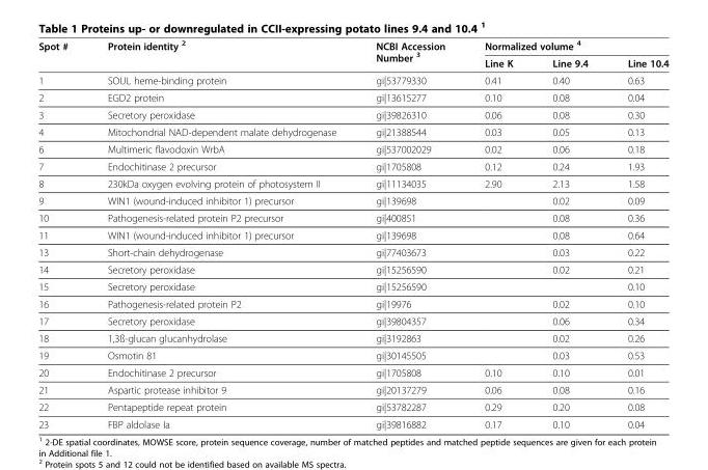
<table><thead><tr><td rowspan="2">Spot #</td><td rowspan="2">Protein identity <sup>2</sup></td><td rowspan="2">NCBI Accession Number <sup>3</sup></td><td colspan="3">Normalized volume <sup>4</sup></td></tr><tr><td>Line K</td><td>Line 9.4</td><td>Line 10.4</td></tr></thead><tbody><tr><td>1</td><td>SOUL heme-binding protein</td><td>gi|53779330</td><td>0.41</td><td>0.40</td><td>0.63</td></tr><tr><td>2</td><td>EGD2 protein</td><td>gi|13615277</td><td>0.10</td><td>0.08</td><td>0.04</td></tr><tr><td>3</td><td>Secretory peroxidase</td><td>gi|39826310</td><td>0.06</td><td>0.08</td><td>0.30</td></tr><tr><td>4</td><td>Mitochondrial NAD-dependent malate dehydrogenase</td><td>gi|21388544</td><td>0.03</td><td>0.05</td><td>0.13</td></tr><tr><td>6</td><td>Multimeric flavodoxin WrbA</td><td>gi|537002029</td><td>0.02</td><td>0.06</td><td>0.18</td></tr><tr><td>7</td><td>Endochitinase 2 precursor</td><td>gi|1705808</td><td>0.12</td><td>0.24</td><td>1.93</td></tr><tr><td>8</td><td>230kDa oxygen evolving protein of photosystem II</td><td>gi|11134035</td><td>2.90</td><td>2.13</td><td>1.58</td></tr><tr><td>9</td><td>WIN1 (wound-induced inhibitor 1) precursor</td><td>gi|139698</td><td></td><td>0.02</td><td>0.09</td></tr><tr><td>10</td><td>Pathogenesis-related protein P2 precursor</td><td>gi|400851</td><td></td><td>0.08</td><td>0.36</td></tr><tr><td>11</td><td>WIN1 (wound-induced inhibitor 1) precursor</td><td>gi|139698</td><td></td><td>0.08</td><td>0.64</td></tr><tr><td>13</td><td>Short-chain dehydrogenase</td><td>gi|77403673</td><td></td><td>0.03</td><td>0.22</td></tr><tr><td>14</td><td>Secretory peroxidase</td><td>gi|15256590</td><td></td><td>0.02</td><td>0.21</td></tr><tr><td>15</td><td>Secretory peroxidase</td><td>gi|15256590</td><td></td><td></td><td>0.10</td></tr><tr><td>16</td><td>Pathogenesis-related protein P2</td><td>gi|19976</td><td></td><td>0.02</td><td>0.10</td></tr><tr><td>17</td><td>Secretory peroxidase</td><td>gi|39804357</td><td></td><td>0.06</td><td>0.34</td></tr><tr><td>18</td><td>1,3ß-glucan glucanhydrolase</td><td>gi|3192863</td><td></td><td>0.02</td><td>0.26</td></tr><tr><td>19</td><td>Osmotin 81</td><td>gi|30145505</td><td></td><td>0.03</td><td>0.53</td></tr><tr><td>20</td><td>Endochitinase 2 precursor</td><td>gi|1705808</td><td>0.10</td><td>0.10</td><td>0.01</td></tr><tr><td>21</td><td>Aspartic protease inhibitor 9</td><td>gi|20137279</td><td>0.06</td><td>0.08</td><td>0.16</td></tr><tr><td>22</td><td>Pentapeptide repeat protein</td><td>gi|53782287</td><td>0.29</td><td>0.20</td><td>0.08</td></tr><tr><td>23</td><td>FBP aldolase Ia</td><td>gi|39816882</td><td>0.17</td><td>0.10</td><td>0.04</td></tr></tbody></table>